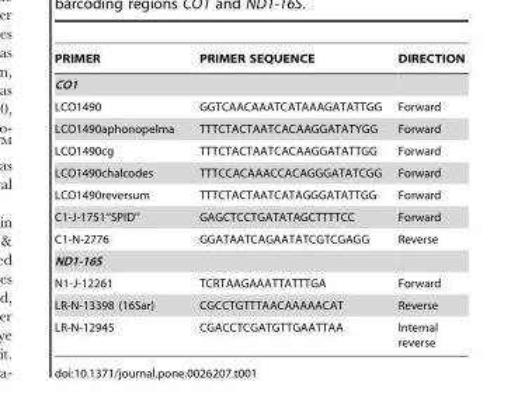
<table><thead><tr><td>PRIMER</td><td>PRIMER SEQUENCE</td><td>DIRECTION</td></tr></thead><tbody><tr><td colspan="3">CO1</td></tr><tr><td>LCO1490</td><td>GGTCAACAAATCATAAAGATATTGG</td><td>Forward</td></tr><tr><td>LCO1490aphonopelma</td><td>TTTCTACTAATCACAAGGATATYGG</td><td>Forward</td></tr><tr><td>LCO1490cg</td><td>TTTCTACTAATCACAAGGATATTGG</td><td>Forward</td></tr><tr><td>LCO1490chalcodes</td><td>TTTCCACAAACCACAGGGATATCGG</td><td>Forward</td></tr><tr><td>LCO1490reversum</td><td>TTTCTACTAATCATAGGGATATTGG</td><td>Forward</td></tr><tr><td>C1-J-1751‘‘SPID’’</td><td>GAGCTCCTGATATAGCTTTTCC</td><td>Forward</td></tr><tr><td>C1-N-2776</td><td>GGATAATCAGAATATCGTCGAGG</td><td>Reverse</td></tr><tr><td colspan="3">ND1-16S</td></tr><tr><td>N1-J-12261</td><td>TCRTAAGAAATTATTTGA</td><td>Forward</td></tr><tr><td>LR-N-13398 (16Sar)</td><td>CGCCTGTTTAACAAAAACAT</td><td>Reverse</td></tr><tr><td>LR-N-12945</td><td>CGACCTCGATGTTGAATTAA</td><td>Internal reverse</td></tr></tbody></table>